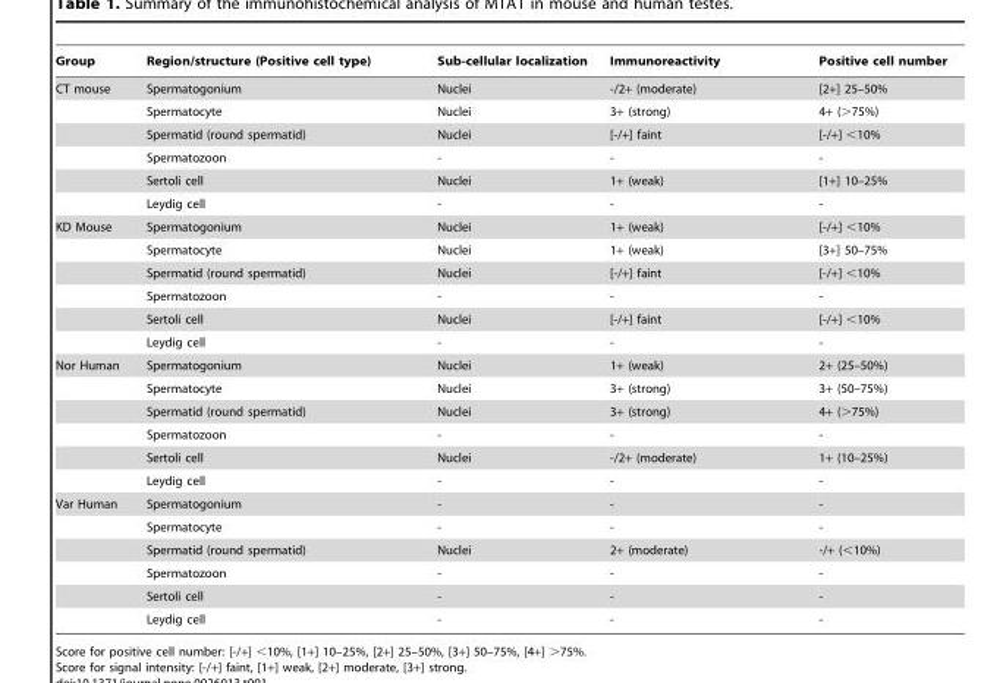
<table><thead><tr><td>Group</td><td>Region/structure (Positive cell type)</td><td>Sub-cellular localization</td><td>Immunoreactivity</td><td>Positive cell number</td></tr></thead><tbody><tr><td rowspan="6">CT mouse</td><td>Spermatogonium</td><td>Nuclei</td><td>-/2+ (moderate)</td><td>[2+] 25–50%</td></tr><tr><td>Spermatocyte</td><td>Nuclei</td><td>3+ (strong)</td><td>4+ (&gt;75%)</td></tr><tr><td>Spermatid (round spermatid)</td><td>Nuclei</td><td>[-/+] faint</td><td>[-/+] &lt;10%</td></tr><tr><td>Spermatozoon</td><td>-</td><td>-</td><td>-</td></tr><tr><td>Sertoli cell</td><td>Nuclei</td><td>1+ (weak)</td><td>[1+] 10–25%</td></tr><tr><td>Leydig cell</td><td>-</td><td>-</td><td>-</td></tr><tr><td rowspan="6">KD Mouse</td><td>Spermatogonium</td><td>Nuclei</td><td>1+ (weak)</td><td>[-/+] &lt;10%</td></tr><tr><td>Spermatocyte</td><td>Nuclei</td><td>1+ (weak)</td><td>[3+] 50–75%</td></tr><tr><td>Spermatid (round spermatid)</td><td>Nuclei</td><td>[-/+] faint</td><td>[-/+] &lt;10%</td></tr><tr><td>Spermatozoon</td><td>-</td><td>-</td><td>-</td></tr><tr><td>Sertoli cell</td><td>Nuclei</td><td>[-/+] faint</td><td>[-/+] &lt;10%</td></tr><tr><td>Leydig cell</td><td>-</td><td>-</td><td>-</td></tr><tr><td rowspan="6">Nor Human</td><td>Spermatogonium</td><td>Nuclei</td><td>1+ (weak)</td><td>2+ (25–50%)</td></tr><tr><td>Spermatocyte</td><td>Nuclei</td><td>3+ (strong)</td><td>3+ (50–75%)</td></tr><tr><td>Spermatid (round spermatid)</td><td>Nuclei</td><td>3+ (strong)</td><td>4+ (&gt;75%)</td></tr><tr><td>Spermatozoon</td><td>-</td><td>-</td><td>-</td></tr><tr><td>Sertoli cell</td><td>Nuclei</td><td>-/2+ (moderate)</td><td>1+ (10–25%)</td></tr><tr><td>Leydig cell</td><td>-</td><td>-</td><td>-</td></tr><tr><td rowspan="6">Var Human</td><td>Spermatogonium</td><td>-</td><td>-</td><td>-</td></tr><tr><td>Spermatocyte</td><td>-</td><td>-</td><td>-</td></tr><tr><td>Spermatid (round spermatid)</td><td>Nuclei</td><td>2+ (moderate)</td><td>-/+ (&lt;10%)</td></tr><tr><td>Spermatozoon</td><td>-</td><td>-</td><td>-</td></tr><tr><td>Sertoli cell</td><td>-</td><td>-</td><td>-</td></tr><tr><td>Leydig cell</td><td>-</td><td>-</td><td>-</td></tr></tbody></table>